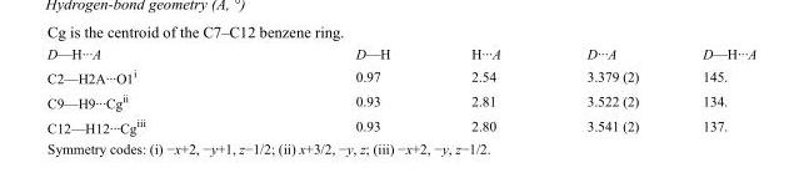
<table><tbody><tr><td>D—H···A</td><td>D—H</td><td>H···A</td><td>D···A</td><td>D—H···A</td></tr><tr><td>C2—H2A···O1<sup>i</sup></td><td>0.97</td><td>2.54</td><td>3.379 (2)</td><td>145.</td></tr><tr><td>C9—H9···Cg<sup>ii</sup></td><td>0.93</td><td>2.81</td><td>3.522 (2)</td><td>134.</td></tr><tr><td>C12—H12···Cg<sup>iii</sup></td><td>0.93</td><td>2.80</td><td>3.541 (2)</td><td>137.</td></tr></tbody></table>